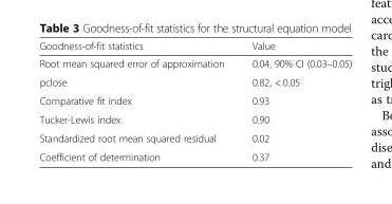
<table><thead><tr><td>Goodness-of-fit statistics</td><td>Value</td></tr></thead><tbody><tr><td>Root mean squared error of approximation</td><td>0.04, 90% CI (0.03–0.05)</td></tr><tr><td>pclose</td><td>0.82, &lt; 0.05</td></tr><tr><td>Comparative fit index</td><td>0.93</td></tr><tr><td>Tucker-Lewis index</td><td>0.90</td></tr><tr><td>Standardized root mean squared residual</td><td>0.02</td></tr><tr><td>Coefficient of determination</td><td>0.37</td></tr></tbody></table>